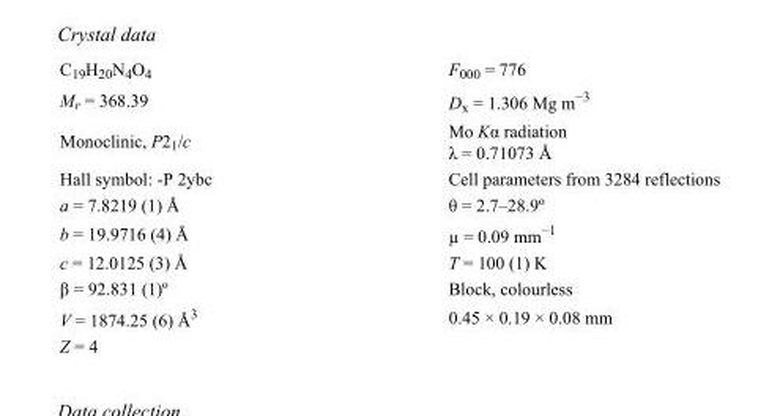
<table><tbody><tr><td>C<sub>19</sub>H<sub>20</sub>N<sub>4</sub>O<sub>4</sub></td><td>F<sub>000</sub> = 776</td></tr><tr><td>M<sub>r</sub> = 368.39</td><td>D<sub>x</sub> = 1.306 Mg m<sup>−3</sup></td></tr><tr><td>Monoclinic, P2<sub>1</sub>/c</td><td>Mo Kα radiation λ = 0.71073 Å</td></tr><tr><td>Hall symbol: -P 2ybc</td><td>Cell parameters from 3284 reflections</td></tr><tr><td>a = 7.8219 (1) Å</td><td>θ = 2.7–28.9º</td></tr><tr><td>b = 19.9716 (4) Å</td><td>µ = 0.09 mm<sup>−1</sup></td></tr><tr><td>c = 12.0125 (3) Å</td><td>T = 100 (1) K</td></tr><tr><td>β = 92.831 (1)º</td><td>Block, colourless</td></tr><tr><td>V = 1874.25 (6) Å<sup>3</sup></td><td>0.45 × 0.19 × 0.08 mm</td></tr><tr><td>Z = 4</td><td></td></tr></tbody></table>